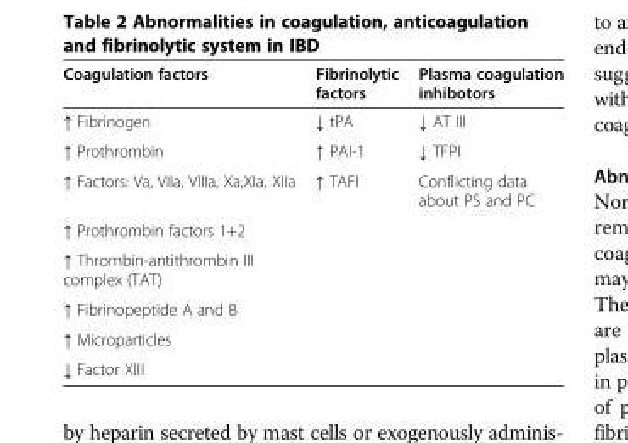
<table><thead><tr><td>Coagulation factors</td><td>Fibrinolytic factors</td><td>Plasma coagulation inhibotors</td></tr></thead><tbody><tr><td>↑ Fibrinogen</td><td>↓ tPA</td><td>↓ AT III</td></tr><tr><td>↑ Prothrombin</td><td>↑ PAI-1</td><td>↓ TFPI</td></tr><tr><td>↑ Factors: Va, VIIa, VIIIa, Xa,XIa, XIIa</td><td>↑ TAFI</td><td>Conflicting data about PS and PC</td></tr><tr><td colspan="3">↑ Prothrombin factors 1+2</td></tr><tr><td colspan="3">↑ Thrombin-antithrombin III complex (TAT)</td></tr><tr><td colspan="3">↑ Fibrinopeptide A and B</td></tr><tr><td colspan="3">↑ Microparticles</td></tr><tr><td>↓ Factor XIII</td><td></td><td></td></tr></tbody></table>